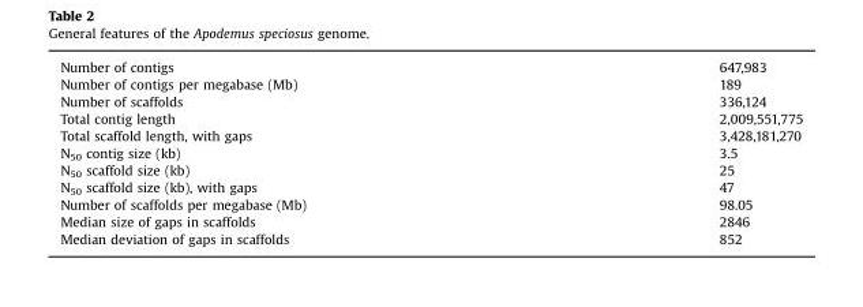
<table><tbody><tr><td>Number of contigs</td><td>647,983</td></tr><tr><td>Number of contigs per megabase (Mb)</td><td>189</td></tr><tr><td>Number of scaffolds</td><td>336,124</td></tr><tr><td>Total contig length</td><td>2,009,551,775</td></tr><tr><td>Total scaffold length, with gaps</td><td>3,428,181,270</td></tr><tr><td>N<sub>50</sub> contig size (kb)</td><td>3.5</td></tr><tr><td>N<sub>50</sub> scaffold size (kb)</td><td>25</td></tr><tr><td>N<sub>50</sub> scaffold size (kb), with gaps</td><td>47</td></tr><tr><td>Number of scaffolds per megabase (Mb)</td><td>98.05</td></tr><tr><td>Median size of gaps in scaffolds</td><td>2846</td></tr><tr><td>Median deviation of gaps in scaffolds</td><td>852</td></tr></tbody></table>